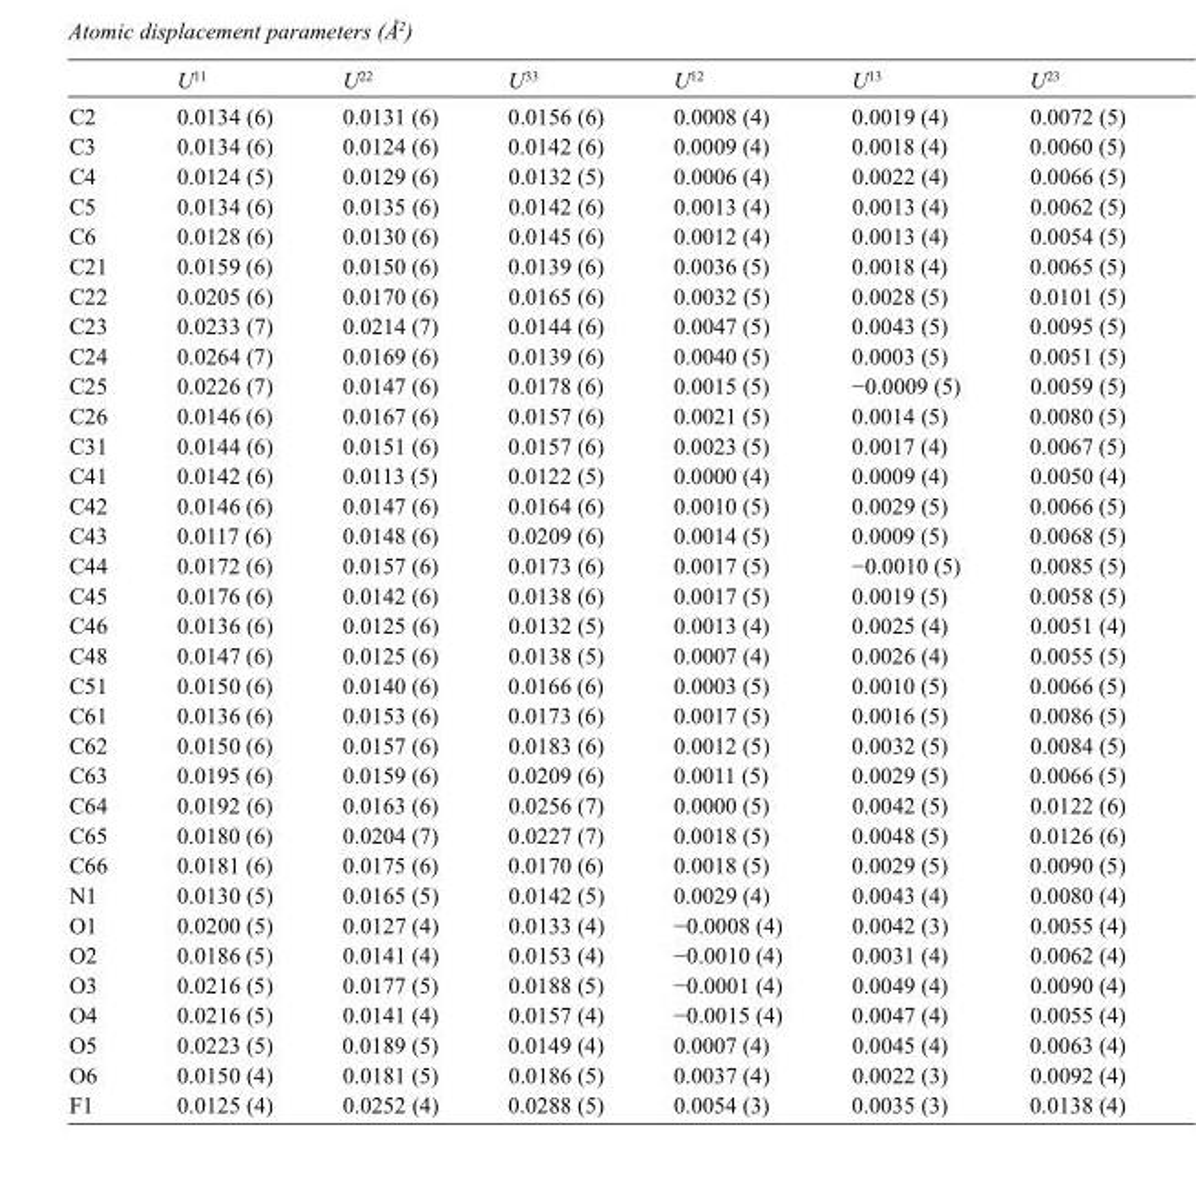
<table><thead><tr><td></td><td>U<sup>11</sup></td><td>U<sup>22</sup></td><td>U<sup>33</sup></td><td>U<sup>12</sup></td><td>U<sup>13</sup></td><td>U<sup>23</sup></td></tr></thead><tbody><tr><td>C2</td><td>0.0134 (6)</td><td>0.0131 (6)</td><td>0.0156 (6)</td><td>0.0008 (4)</td><td>0.0019 (4)</td><td>0.0072 (5)</td></tr><tr><td>C3</td><td>0.0134 (6)</td><td>0.0124 (6)</td><td>0.0142 (6)</td><td>0.0009 (4)</td><td>0.0018 (4)</td><td>0.0060 (5)</td></tr><tr><td>C4</td><td>0.0124 (5)</td><td>0.0129 (6)</td><td>0.0132 (5)</td><td>0.0006 (4)</td><td>0.0022 (4)</td><td>0.0066 (5)</td></tr><tr><td>C5</td><td>0.0134 (6)</td><td>0.0135 (6)</td><td>0.0142 (6)</td><td>0.0013 (4)</td><td>0.0013 (4)</td><td>0.0062 (5)</td></tr><tr><td>C6</td><td>0.0128 (6)</td><td>0.0130 (6)</td><td>0.0145 (6)</td><td>0.0012 (4)</td><td>0.0013 (4)</td><td>0.0054 (5)</td></tr><tr><td>C21</td><td>0.0159 (6)</td><td>0.0150 (6)</td><td>0.0139 (6)</td><td>0.0036 (5)</td><td>0.0018 (4)</td><td>0.0065 (5)</td></tr><tr><td>C22</td><td>0.0205 (6)</td><td>0.0170 (6)</td><td>0.0165 (6)</td><td>0.0032 (5)</td><td>0.0028 (5)</td><td>0.0101 (5)</td></tr><tr><td>C23</td><td>0.0233 (7)</td><td>0.0214 (7)</td><td>0.0144 (6)</td><td>0.0047 (5)</td><td>0.0043 (5)</td><td>0.0095 (5)</td></tr><tr><td>C24</td><td>0.0264 (7)</td><td>0.0169 (6)</td><td>0.0139 (6)</td><td>0.0040 (5)</td><td>0.0003 (5)</td><td>0.0051 (5)</td></tr><tr><td>C25</td><td>0.0226 (7)</td><td>0.0147 (6)</td><td>0.0178 (6)</td><td>0.0015 (5)</td><td>−0.0009 (5)</td><td>0.0059 (5)</td></tr><tr><td>C26</td><td>0.0146 (6)</td><td>0.0167 (6)</td><td>0.0157 (6)</td><td>0.0021 (5)</td><td>0.0014 (5)</td><td>0.0080 (5)</td></tr><tr><td>C31</td><td>0.0144 (6)</td><td>0.0151 (6)</td><td>0.0157 (6)</td><td>0.0023 (5)</td><td>0.0017 (4)</td><td>0.0067 (5)</td></tr><tr><td>C41</td><td>0.0142 (6)</td><td>0.0113 (5)</td><td>0.0122 (5)</td><td>0.0000 (4)</td><td>0.0009 (4)</td><td>0.0050 (4)</td></tr><tr><td>C42</td><td>0.0146 (6)</td><td>0.0147 (6)</td><td>0.0164 (6)</td><td>0.0010 (5)</td><td>0.0029 (5)</td><td>0.0066 (5)</td></tr><tr><td>C43</td><td>0.0117 (6)</td><td>0.0148 (6)</td><td>0.0209 (6)</td><td>0.0014 (5)</td><td>0.0009 (5)</td><td>0.0068 (5)</td></tr><tr><td>C44</td><td>0.0172 (6)</td><td>0.0157 (6)</td><td>0.0173 (6)</td><td>0.0017 (5)</td><td>−0.0010 (5)</td><td>0.0085 (5)</td></tr><tr><td>C45</td><td>0.0176 (6)</td><td>0.0142 (6)</td><td>0.0138 (6)</td><td>0.0017 (5)</td><td>0.0019 (5)</td><td>0.0058 (5)</td></tr><tr><td>C46</td><td>0.0136 (6)</td><td>0.0125 (6)</td><td>0.0132 (5)</td><td>0.0013 (4)</td><td>0.0025 (4)</td><td>0.0051 (4)</td></tr><tr><td>C48</td><td>0.0147 (6)</td><td>0.0125 (6)</td><td>0.0138 (5)</td><td>0.0007 (4)</td><td>0.0026 (4)</td><td>0.0055 (5)</td></tr><tr><td>C51</td><td>0.0150 (6)</td><td>0.0140 (6)</td><td>0.0166 (6)</td><td>0.0003 (5)</td><td>0.0010 (5)</td><td>0.0066 (5)</td></tr><tr><td>C61</td><td>0.0136 (6)</td><td>0.0153 (6)</td><td>0.0173 (6)</td><td>0.0017 (5)</td><td>0.0016 (5)</td><td>0.0086 (5)</td></tr><tr><td>C62</td><td>0.0150 (6)</td><td>0.0157 (6)</td><td>0.0183 (6)</td><td>0.0012 (5)</td><td>0.0032 (5)</td><td>0.0084 (5)</td></tr><tr><td>C63</td><td>0.0195 (6)</td><td>0.0159 (6)</td><td>0.0209 (6)</td><td>0.0011 (5)</td><td>0.0029 (5)</td><td>0.0066 (5)</td></tr><tr><td>C64</td><td>0.0192 (6)</td><td>0.0163 (6)</td><td>0.0256 (7)</td><td>0.0000 (5)</td><td>0.0042 (5)</td><td>0.0122 (6)</td></tr><tr><td>C65</td><td>0.0180 (6)</td><td>0.0204 (7)</td><td>0.0227 (7)</td><td>0.0018 (5)</td><td>0.0048 (5)</td><td>0.0126 (6)</td></tr><tr><td>C66</td><td>0.0181 (6)</td><td>0.0175 (6)</td><td>0.0170 (6)</td><td>0.0018 (5)</td><td>0.0029 (5)</td><td>0.0090 (5)</td></tr><tr><td>N1</td><td>0.0130 (5)</td><td>0.0165 (5)</td><td>0.0142 (5)</td><td>0.0029 (4)</td><td>0.0043 (4)</td><td>0.0080 (4)</td></tr><tr><td>O1</td><td>0.0200 (5)</td><td>0.0127 (4)</td><td>0.0133 (4)</td><td>−0.0008 (4)</td><td>0.0042 (3)</td><td>0.0055 (4)</td></tr><tr><td>O2</td><td>0.0186 (5)</td><td>0.0141 (4)</td><td>0.0153 (4)</td><td>−0.0010 (4)</td><td>0.0031 (4)</td><td>0.0062 (4)</td></tr><tr><td>O3</td><td>0.0216 (5)</td><td>0.0177 (5)</td><td>0.0188 (5)</td><td>−0.0001 (4)</td><td>0.0049 (4)</td><td>0.0090 (4)</td></tr><tr><td>O4</td><td>0.0216 (5)</td><td>0.0141 (4)</td><td>0.0157 (4)</td><td>−0.0015 (4)</td><td>0.0047 (4)</td><td>0.0055 (4)</td></tr><tr><td>O5</td><td>0.0223 (5)</td><td>0.0189 (5)</td><td>0.0149 (4)</td><td>0.0007 (4)</td><td>0.0045 (4)</td><td>0.0063 (4)</td></tr><tr><td>O6</td><td>0.0150 (4)</td><td>0.0181 (5)</td><td>0.0186 (5)</td><td>0.0037 (4)</td><td>0.0022 (3)</td><td>0.0092 (4)</td></tr><tr><td>F1</td><td>0.0125 (4)</td><td>0.0252 (4)</td><td>0.0288 (5)</td><td>0.0054 (3)</td><td>0.0035 (3)</td><td>0.0138 (4)</td></tr></tbody></table>